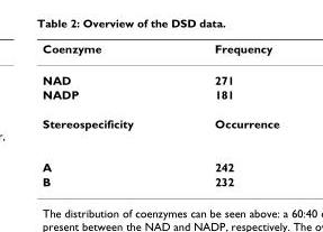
<table><thead><tr><td>Coenzyme</td><td>Frequency</td></tr></thead><tbody><tr><td>NAD</td><td>271</td></tr><tr><td>NADP</td><td>181</td></tr><tr><td>Stereospecificity</td><td>Occurrence</td></tr><tr><td>A</td><td>242</td></tr><tr><td>B</td><td>232</td></tr></tbody></table>